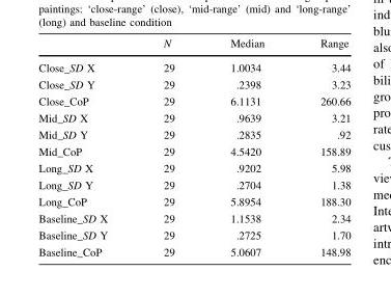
<table><thead><tr><td></td><td>N</td><td>Median</td><td>Range</td></tr></thead><tbody><tr><td>Close_SD X</td><td>29</td><td>1.0034</td><td>3.44</td></tr><tr><td>Close_SD Y</td><td>29</td><td>.2398</td><td>3.23</td></tr><tr><td>Close_CoP</td><td>29</td><td>6.1131</td><td>260.66</td></tr><tr><td>Mid_SD X</td><td>29</td><td>.9639</td><td>3.21</td></tr><tr><td>Mid_SD Y</td><td>29</td><td>.2835</td><td>.92</td></tr><tr><td>Mid_CoP</td><td>29</td><td>4.5420</td><td>158.89</td></tr><tr><td>Long_SD X</td><td>29</td><td>.9202</td><td>5.98</td></tr><tr><td>Long_SD Y</td><td>29</td><td>.2704</td><td>1.38</td></tr><tr><td>Long_CoP</td><td>29</td><td>5.8954</td><td>188.30</td></tr><tr><td>Baseline_SD X</td><td>29</td><td>1.1538</td><td>2.34</td></tr><tr><td>Baseline_SD Y</td><td>29</td><td>.2725</td><td>1.70</td></tr><tr><td>Baseline_CoP</td><td>29</td><td>5.0607</td><td>148.98</td></tr></tbody></table>